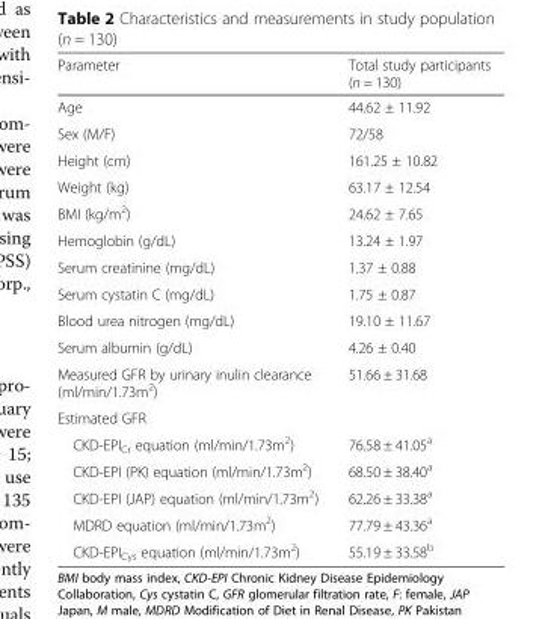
<table><thead><tr><td>Parameter</td><td>Total study participants (n = 130)</td></tr></thead><tbody><tr><td>Age</td><td>44.62 ± 11.92</td></tr><tr><td>Sex (M/F)</td><td>72/58</td></tr><tr><td>Height (cm)</td><td>161.25 ± 10.82</td></tr><tr><td>Weight (kg)</td><td>63.17 ± 12.54</td></tr><tr><td>BMI (kg/m<sup>2</sup>)</td><td>24.62 ± 7.65</td></tr><tr><td>Hemoglobin (g/dL)</td><td>13.24 ± 1.97</td></tr><tr><td>Serum creatinine (mg/dL)</td><td>1.37 ± 0.88</td></tr><tr><td>Serum cystatin C (mg/dL)</td><td>1.75 ± 0.87</td></tr><tr><td>Blood urea nitrogen (mg/dL)</td><td>19.10 ± 11.67</td></tr><tr><td>Serum albumin (g/dL)</td><td>4.26 ± 0.40</td></tr><tr><td>Measured GFR by urinary inulin clearance (ml/min/1.73m<sup>2</sup>)</td><td>51.66 ± 31.68</td></tr><tr><td colspan="2">Estimated GFR</td></tr><tr><td>CKD-EPI<sub>Cr</sub> equation (ml/min/1.73m<sup>2</sup>)</td><td>76.58 ± 41.05<sup>a</sup></td></tr><tr><td>CKD-EPI (PK) equation (ml/min/1.73m<sup>2</sup>)</td><td>68.50 ± 38.40<sup>a</sup></td></tr><tr><td>CKD-EPI (JAP) equation (ml/min/1.73m<sup>2</sup>)</td><td>62.26 ± 33.38<sup>a</sup></td></tr><tr><td>MDRD equation (ml/min/1.73m<sup>2</sup>)</td><td>77.79 ± 43.36<sup>a</sup></td></tr><tr><td>CKD-EPI<sub>Cys</sub> equation (ml/min/1.73m<sup>2</sup>)</td><td>55.19 ± 33.58<sup>b</sup></td></tr></tbody></table>